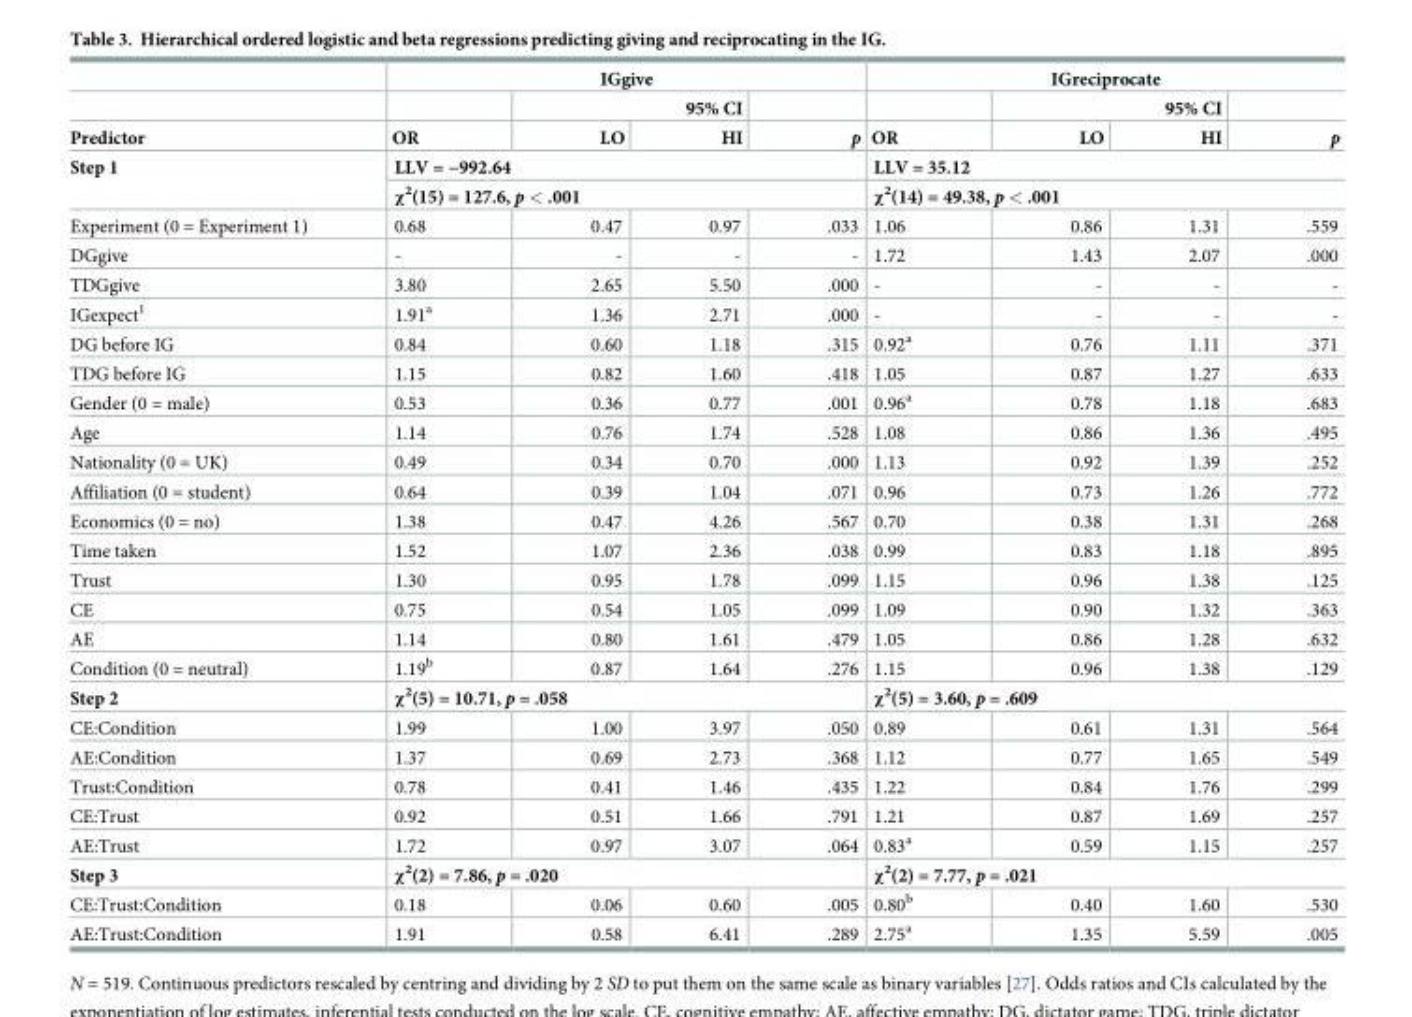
<table><thead><tr><td rowspan="3">Predictor</td><td colspan="4">IGgive</td><td colspan="4">IGreciprocate</td></tr><tr><td rowspan="2">OR</td><td colspan="2">95% CI</td><td rowspan="2">p</td><td rowspan="2">OR</td><td colspan="2">95% CI</td><td rowspan="2">p</td></tr><tr><td>LO</td><td>HI</td><td>LO</td><td>HI</td></tr></thead><tbody><tr><td rowspan="2">Step 1</td><td colspan="4">LLV = −992.64</td><td colspan="4">LLV = 35.12</td></tr><tr><td colspan="4">χ<sup>2</sup>(15) = 127.6, p &lt; .001</td><td colspan="4">χ<sup>2</sup>(14) = 49.38, p &lt; .001</td></tr><tr><td>Experiment (0 = Experiment 1)</td><td>0.68</td><td>0.47</td><td>0.97</td><td>.033</td><td>1.06</td><td>0.86</td><td>1.31</td><td>.559</td></tr><tr><td>DGgive</td><td>-</td><td>-</td><td>-</td><td>-</td><td>1.72</td><td>1.43</td><td>2.07</td><td>.000</td></tr><tr><td>TDGgive</td><td>3.80</td><td>2.65</td><td>5.50</td><td>.000</td><td>-</td><td>-</td><td>-</td><td>-</td></tr><tr><td>IGexpect<sup>1</sup></td><td>1.91<sup>a</sup></td><td>1.36</td><td>2.71</td><td>.000</td><td>-</td><td>-</td><td>-</td><td>-</td></tr><tr><td>DG before IG</td><td>0.84</td><td>0.60</td><td>1.18</td><td>.315</td><td>0.92<sup>a</sup></td><td>0.76</td><td>1.11</td><td>.371</td></tr><tr><td>TDG before IG</td><td>1.15</td><td>0.82</td><td>1.60</td><td>.418</td><td>1.05</td><td>0.87</td><td>1.27</td><td>.633</td></tr><tr><td>Gender (0 = male)</td><td>0.53</td><td>0.36</td><td>0.77</td><td>.001</td><td>0.96<sup>a</sup></td><td>0.78</td><td>1.18</td><td>.683</td></tr><tr><td>Age</td><td>1.14</td><td>0.76</td><td>1.74</td><td>.528</td><td>1.08</td><td>0.86</td><td>1.36</td><td>.495</td></tr><tr><td>Nationality (0 = UK)</td><td>0.49</td><td>0.34</td><td>0.70</td><td>.000</td><td>1.13</td><td>0.92</td><td>1.39</td><td>.252</td></tr><tr><td>Affiliation (0 = student)</td><td>0.64</td><td>0.39</td><td>1.04</td><td>.071</td><td>0.96</td><td>0.73</td><td>1.26</td><td>.772</td></tr><tr><td>Economics (0 = no)</td><td>1.38</td><td>0.47</td><td>4.26</td><td>.567</td><td>0.70</td><td>0.38</td><td>1.31</td><td>.268</td></tr><tr><td>Time taken</td><td>1.52</td><td>1.07</td><td>2.36</td><td>.038</td><td>0.99</td><td>0.83</td><td>1.18</td><td>.895</td></tr><tr><td>Trust</td><td>1.30</td><td>0.95</td><td>1.78</td><td>.099</td><td>1.15</td><td>0.96</td><td>1.38</td><td>.125</td></tr><tr><td>CE</td><td>0.75</td><td>0.54</td><td>1.05</td><td>.099</td><td>1.09</td><td>0.90</td><td>1.32</td><td>.363</td></tr><tr><td>AE</td><td>1.14</td><td>0.80</td><td>1.61</td><td>.479</td><td>1.05</td><td>0.86</td><td>1.28</td><td>.632</td></tr><tr><td>Condition (0 = neutral)</td><td>1.19<sup>b</sup></td><td>0.87</td><td>1.64</td><td>.276</td><td>1.15</td><td>0.96</td><td>1.38</td><td>.129</td></tr><tr><td>Step 2</td><td colspan="4">χ<sup>2</sup>(5) = 10.71, p = .058</td><td colspan="4">χ<sup>2</sup>(5) = 3.60, p = .609</td></tr><tr><td>CE:Condition</td><td>1.99</td><td>1.00</td><td>3.97</td><td>.050</td><td>0.89</td><td>0.61</td><td>1.31</td><td>.564</td></tr><tr><td>AE:Condition</td><td>1.37</td><td>0.69</td><td>2.73</td><td>.368</td><td>1.12</td><td>0.77</td><td>1.65</td><td>.549</td></tr><tr><td>Trust:Condition</td><td>0.78</td><td>0.41</td><td>1.46</td><td>.435</td><td>1.22</td><td>0.84</td><td>1.76</td><td>.299</td></tr><tr><td>CE:Trust</td><td>0.92</td><td>0.51</td><td>1.66</td><td>.791</td><td>1.21</td><td>0.87</td><td>1.69</td><td>.257</td></tr><tr><td>AE:Trust</td><td>1.72</td><td>0.97</td><td>3.07</td><td>.064</td><td>0.83<sup>a</sup></td><td>0.59</td><td>1.15</td><td>.257</td></tr><tr><td>Step 3</td><td colspan="4">χ<sup>2</sup>(2) = 7.86, p = .020</td><td colspan="4">χ<sup>2</sup>(2) = 7.77, p = .021</td></tr><tr><td>CE:Trust:Condition</td><td>0.18</td><td>0.06</td><td>0.60</td><td>.005</td><td>0.80<sup>b</sup></td><td>0.40</td><td>1.60</td><td>.530</td></tr><tr><td>AE:Trust:Condition</td><td>1.91</td><td>0.58</td><td>6.41</td><td>.289</td><td>2.75<sup>a</sup></td><td>1.35</td><td>5.59</td><td>.005</td></tr></tbody></table>